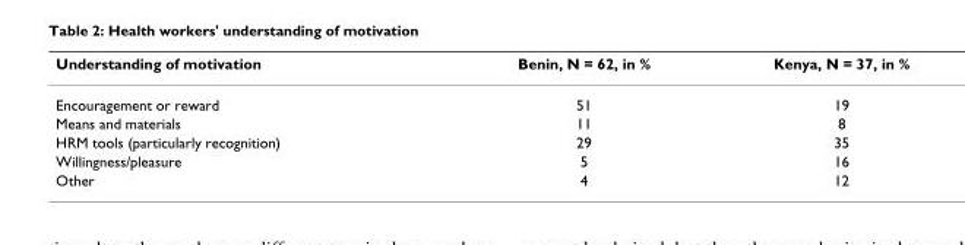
<table><thead><tr><td>Understanding of motivation</td><td>Benin, N = 62, in %</td><td>Kenya, N = 37, in %</td></tr></thead><tbody><tr><td>Encouragement or reward</td><td>51</td><td>19</td></tr><tr><td>Means and materials</td><td>11</td><td>8</td></tr><tr><td>HRM tools (particularly recognition)</td><td>29</td><td>35</td></tr><tr><td>Willingness/pleasure</td><td>5</td><td>16</td></tr><tr><td>Other</td><td>4</td><td>12</td></tr></tbody></table>